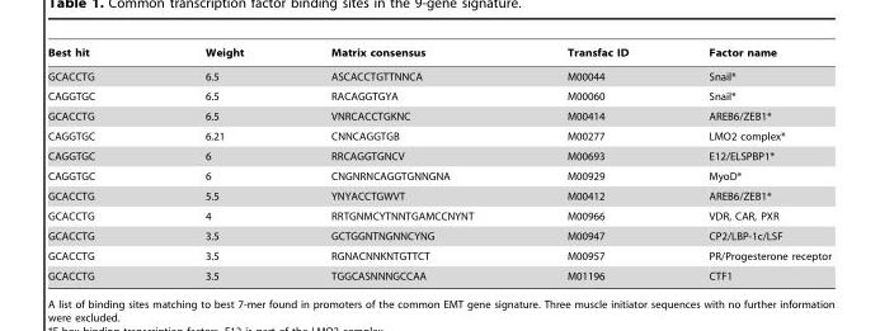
<table><thead><tr><td>Best hit</td><td>Weight</td><td>Matrix consensus</td><td>Transfac ID</td><td>Factor name</td></tr></thead><tbody><tr><td>GCACCTG</td><td>6.5</td><td>ASCACCTGTTNNCA</td><td>M00044</td><td>Snail*</td></tr><tr><td>CAGGTGC</td><td>6.5</td><td>RACAGGTGYA</td><td>M00060</td><td>Snail*</td></tr><tr><td>GCACCTG</td><td>6.5</td><td>VNRCACCTGKNC</td><td>M00414</td><td>AREB6/ZEB1*</td></tr><tr><td>CAGGTGC</td><td>6.21</td><td>CNNCAGGTGB</td><td>M00277</td><td>LMO2 complex*</td></tr><tr><td>CAGGTGC</td><td>6</td><td>RRCAGGTGNCV</td><td>M00693</td><td>E12/ELSPBP1*</td></tr><tr><td>CAGGTGC</td><td>6</td><td>CNGNRNCAGGTGNNGNA</td><td>M00929</td><td>MyoD*</td></tr><tr><td>GCACCTG</td><td>5.5</td><td>YNYACCTGWVT</td><td>M00412</td><td>AREB6/ZEB1*</td></tr><tr><td>GCACCTG</td><td>4</td><td>RRTGNMCYTNNTGAMCCNYNT</td><td>M00966</td><td>VDR, CAR, PXR</td></tr><tr><td>GCACCTG</td><td>3.5</td><td>GCTGGNTNGNNCYNG</td><td>M00947</td><td>CP2/LBP-1c/LSF</td></tr><tr><td>GCACCTG</td><td>3.5</td><td>RGNACNNKNTGTTCT</td><td>M00957</td><td>PR/Progesterone receptor</td></tr><tr><td>GCACCTG</td><td>3.5</td><td>TGGCASNNNGCCAA</td><td>M01196</td><td>CTF1</td></tr></tbody></table>